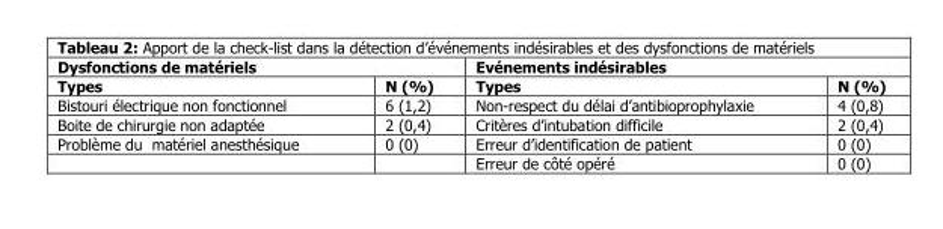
<table><thead><tr><td colspan="2">Dysfonctions de matériels</td><td colspan="2">Evénements indésirables</td></tr><tr><td>Types</td><td>N (%)</td><td>Types</td><td>N (%)</td></tr></thead><tbody><tr><td>Bistouri électrique non fonctionnel</td><td>6 (1,2)</td><td>Non-respect du délai d’antibioprophylaxie</td><td>4 (0,8)</td></tr><tr><td>Boite de chirurgie non adaptée</td><td>2 (0,4)</td><td>Critères d’intubation difficile</td><td>2 (0,4)</td></tr><tr><td rowspan="2">Problème du matériel anesthésique</td><td>0 (0)</td><td>Erreur d’identification de patient</td><td>0 (0)</td></tr><tr><td></td><td>Erreur de côté opéré</td><td>0 (0)</td></tr></tbody></table>